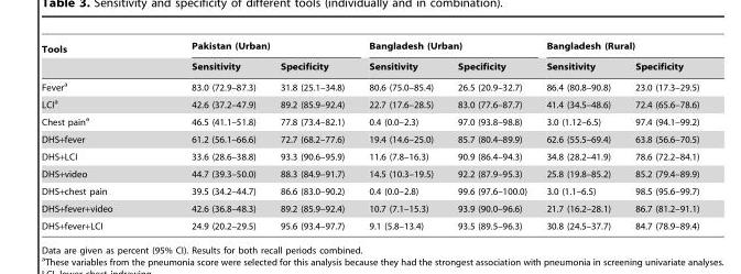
<table><thead><tr><td rowspan="2">Tools</td><td colspan="2">Pakistan (Urban)</td><td colspan="2">Bangladesh (Urban)</td><td colspan="2">Bangladesh (Rural)</td></tr><tr><td>Sensitivity</td><td>Specificity</td><td>Sensitivity</td><td>Specificity</td><td>Sensitivity</td><td>Specificity</td></tr></thead><tbody><tr><td>Fever<sup>a</sup></td><td>83.0 (72.9–87.3)</td><td>31.8 (25.1–34.8)</td><td>80.6 (75.0–85.4)</td><td>26.5 (20.9–32.7)</td><td>86.4 (80.8–90.8)</td><td>23.0 (17.3–29.5)</td></tr><tr><td>LCI<sup>a</sup></td><td>42.6 (37.2–47.9)</td><td>89.2 (85.9–92.4)</td><td>22.7 (17.6–28.5)</td><td>83.0 (77.6–87.7)</td><td>41.4 (34.5–48.6)</td><td>72.4 (65.6–78.6)</td></tr><tr><td>Chest pain<sup>a</sup></td><td>46.5 (41.1–51.8)</td><td>77.8 (73.4–82.1)</td><td>0.4 (0.0–2.3)</td><td>97.0 (93.8–98.8)</td><td>3.0 (1.12–6.5)</td><td>97.4 (94.1–99.2)</td></tr><tr><td>DHS+fever</td><td>61.2 (56.1–66.6)</td><td>72.7 (68.2–77.6)</td><td>19.4 (14.6–25.0)</td><td>85.7 (80.4–89.9)</td><td>62.6 (55.5–69.4)</td><td>63.8 (56.6–70.5)</td></tr><tr><td>DHS+LCI</td><td>33.6 (28.6–38.8)</td><td>93.3 (90.6–95.9)</td><td>11.6 (7.8–16.3)</td><td>90.9 (86.4–94.3)</td><td>34.8 (28.2–41.9)</td><td>78.6 (72.2–84.1)</td></tr><tr><td>DHS+video</td><td>44.7 (39.3–50.0)</td><td>88.3 (84.9–91.7)</td><td>14.5 (10.3–19.5)</td><td>92.2 (87.9–95.3)</td><td>25.8 (19.8–85.2)</td><td>85.2 (79.4–89.9)</td></tr><tr><td>DHS+chest pain</td><td>39.5 (34.2–44.7)</td><td>86.6 (83.0–90.2)</td><td>0.4 (0.0–2.8)</td><td>99.6 (97.6–100.0)</td><td>3.0 (1.1–6.5)</td><td>98.5 (95.6–99.7)</td></tr><tr><td>DHS+fever+video</td><td>42.6 (36.8–48.3)</td><td>89.2 (85.9–92.4)</td><td>10.7 (7.1–15.3)</td><td>93.9 (90.0–96.6)</td><td>21.7 (16.2–28.1)</td><td>86.7 (81.2–91.1)</td></tr><tr><td>DHS+fever+LCI</td><td>24.9 (20.2–29.5)</td><td>95.6 (93.4–97.7)</td><td>9.1 (5.8–13.4)</td><td>93.5 (89.5–96.3)</td><td>30.8 (24.5–37.7)</td><td>84.7 (78.9–89.4)</td></tr></tbody></table>